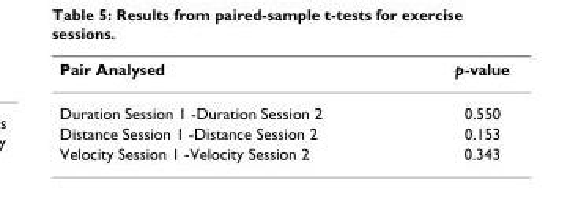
<table><thead><tr><td>Pair Analysed</td><td>p-value</td></tr></thead><tbody><tr><td>Duration Session 1 -Duration Session 2</td><td>0.550</td></tr><tr><td>Distance Session 1 -Distance Session 2</td><td>0.153</td></tr><tr><td>Velocity Session 1 -Velocity Session 2</td><td>0.343</td></tr></tbody></table>